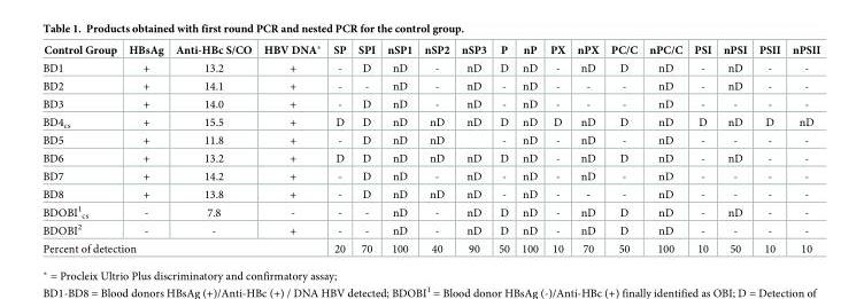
<table><thead><tr><td>Control Group</td><td>HBsAg</td><td>Anti-HBc S/CO</td><td>HBV DNA*</td><td>SP</td><td>SPI</td><td>nSP1</td><td>nSP2</td><td>nSP3</td><td>P</td><td>nP</td><td>PX</td><td>nPX</td><td>PC/C</td><td>nPC/C</td><td>PSI</td><td>nPSI</td><td>PSII</td><td>nPSII</td></tr></thead><tbody><tr><td>BD1</td><td>+</td><td>13.2</td><td>+</td><td>-</td><td>D</td><td>nD</td><td>-</td><td>nD</td><td>D</td><td>nD</td><td>-</td><td>nD</td><td>D</td><td>nD</td><td>-</td><td>nD</td><td>-</td><td>-</td></tr><tr><td>BD2</td><td>+</td><td>14.1</td><td>+</td><td>-</td><td>-</td><td>nD</td><td>-</td><td>nD</td><td>-</td><td>nD</td><td>-</td><td>-</td><td>-</td><td>nD</td><td>-</td><td>nD</td><td>-</td><td>-</td></tr><tr><td>BD3</td><td>+</td><td>14.0</td><td>+</td><td>-</td><td>D</td><td>nD</td><td>-</td><td>nD</td><td>-</td><td>nD</td><td>-</td><td>-</td><td>-</td><td>nD</td><td>-</td><td>-</td><td>-</td><td>-</td></tr><tr><td>BD4<sub>cs</sub></td><td>+</td><td>15.5</td><td>+</td><td>D</td><td>D</td><td>nD</td><td>nD</td><td>nD</td><td>D</td><td>nD</td><td>D</td><td>nD</td><td>D</td><td>nD</td><td>D</td><td>nD</td><td>D</td><td>nD</td></tr><tr><td>BD5</td><td>+</td><td>11.8</td><td>+</td><td>-</td><td>D</td><td>nD</td><td>nD</td><td></td><td>-</td><td>nD</td><td>-</td><td>nD</td><td>-</td><td>nD</td><td>-</td><td>-</td><td>-</td><td>-</td></tr><tr><td>BD6</td><td>+</td><td>13.2</td><td>+</td><td>D</td><td>D</td><td>nD</td><td>nD</td><td>nD</td><td>D</td><td>nD</td><td>-</td><td>nD</td><td>D</td><td>nD</td><td>-</td><td>nD</td><td>-</td><td>-</td></tr><tr><td>BD7</td><td>+</td><td>14.2</td><td>+</td><td>-</td><td>D</td><td>nD</td><td>-</td><td>nD</td><td>-</td><td>nD</td><td>-</td><td>nD</td><td>-</td><td>nD</td><td>-</td><td>-</td><td>-</td><td>-</td></tr><tr><td>BD8</td><td>+</td><td>13.8</td><td>+</td><td>-</td><td>D</td><td>nD</td><td>nD</td><td>nD</td><td>-</td><td>nD</td><td>-</td><td>-</td><td>-</td><td>nD</td><td>-</td><td>-</td><td>-</td><td>-</td></tr><tr><td>BDOBI<sup>1</sup> <sub>cs</sub></td><td>-</td><td>7.8</td><td>-</td><td>-</td><td>-</td><td>nD</td><td>-</td><td>nD</td><td>D</td><td>nD</td><td>-</td><td>nD</td><td>D</td><td>nD</td><td>-</td><td>nD</td><td>-</td><td>-</td></tr><tr><td>BDOBI<sup>2</sup></td><td>-</td><td>-</td><td>+</td><td>-</td><td>-</td><td>nD</td><td>-</td><td>nD</td><td>D</td><td>nD</td><td>-</td><td>nD</td><td>D</td><td>nD</td><td>-</td><td>-</td><td>-</td><td>-</td></tr><tr><td colspan="4">Percent of detection</td><td>20</td><td>70</td><td>100</td><td>40</td><td>90</td><td>50</td><td>100</td><td>10</td><td>70</td><td>50</td><td>100</td><td>10</td><td>50</td><td>10</td><td>10</td></tr></tbody></table>